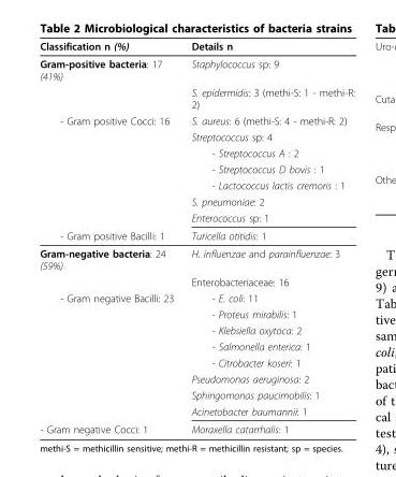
<table><thead><tr><td>Classification n (%)</td><td>Details n</td></tr></thead><tbody><tr><td rowspan="2">Gram-positive bacteria: 17 (41%)</td><td>Staphylococcus sp: 9</td></tr><tr><td>S. epidermidis: 3 (methi-S: 1 - methi-R: 2)</td></tr><tr><td rowspan="7">- Gram positive Cocci: 16</td><td>S. aureus: 6 (methi-S: 4 - methi-R: 2)</td></tr><tr><td>Streptococcus sp: 4</td></tr><tr><td>- Streptococcus A : 2</td></tr><tr><td>- Streptococcus D bovis : 1</td></tr><tr><td>- Lactococcus lactis cremoris : 1</td></tr><tr><td>S. pneumoniae: 2</td></tr><tr><td>Enterococcus sp: 1</td></tr><tr><td>- Gram positive Bacilli: 1</td><td>Turicella otitidis: 1</td></tr><tr><td rowspan="2">Gram-negative bacteria: 24 (59%)</td><td>H. influenzae and parainfluenzae: 3</td></tr><tr><td>Enterobacteriaceae: 16</td></tr><tr><td rowspan="8">- Gram negative Bacilli: 23</td><td>- E. coli: 11</td></tr><tr><td>- Proteus mirabilis: 1</td></tr><tr><td>- Klebsiella oxytoca: 2</td></tr><tr><td>- Salmonella enterica: 1</td></tr><tr><td>- Citrobacter koseri: 1</td></tr><tr><td>Pseudomonas aeruginosa: 2</td></tr><tr><td>Sphingomonas paucimobilis: 1</td></tr><tr><td>Acinetobacter baumannii: 1</td></tr><tr><td>- Gram negative Cocci: 1</td><td>Moraxella catarrhalis: 1</td></tr></tbody></table>